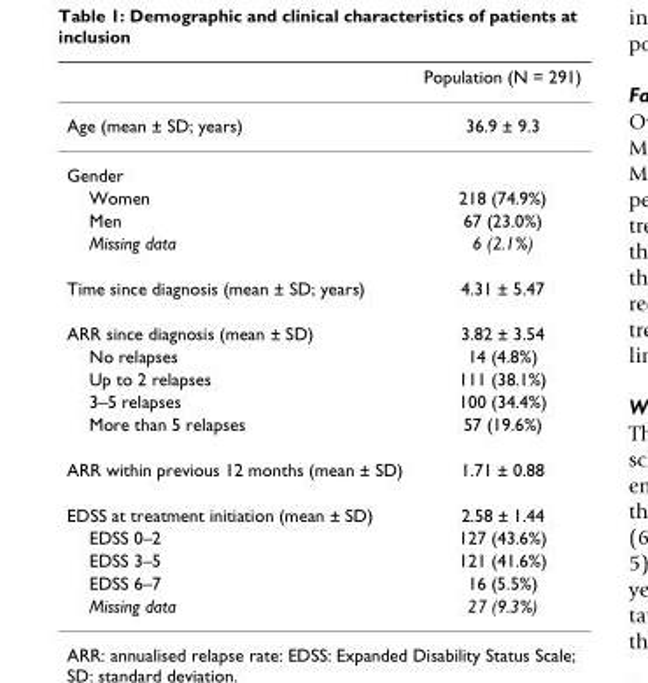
<table><thead><tr><td></td><td>Population (N = 291)</td></tr></thead><tbody><tr><td>Age (mean ± SD; years)</td><td>36.9 ± 9.3</td></tr><tr><td colspan="2">Gender</td></tr><tr><td>Women</td><td>218 (74.9%)</td></tr><tr><td>Men</td><td>67 (23.0%)</td></tr><tr><td>Missing data</td><td>6 (2.1%)</td></tr><tr><td>Time since diagnosis (mean ± SD; years)</td><td>4.31 ± 5.47</td></tr><tr><td>ARR since diagnosis (mean ± SD)</td><td>3.82 ± 3.54</td></tr><tr><td>No relapses</td><td>14 (4.8%)</td></tr><tr><td>Up to 2 relapses</td><td>111 (38.1%)</td></tr><tr><td>3–5 relapses</td><td>100 (34.4%)</td></tr><tr><td>More than 5 relapses</td><td>57 (19.6%)</td></tr><tr><td>ARR within previous 12 months (mean ± SD)</td><td>1.71 ± 0.88</td></tr><tr><td>EDSS at treatment initiation (mean ± SD)</td><td>2.58 ± 1.44</td></tr><tr><td>EDSS 0–2</td><td>127 (43.6%)</td></tr><tr><td>EDSS 3–5</td><td>121 (41.6%)</td></tr><tr><td>EDSS 6–7</td><td>16 (5.5%)</td></tr><tr><td>Missing data</td><td>27 (9.3%)</td></tr></tbody></table>